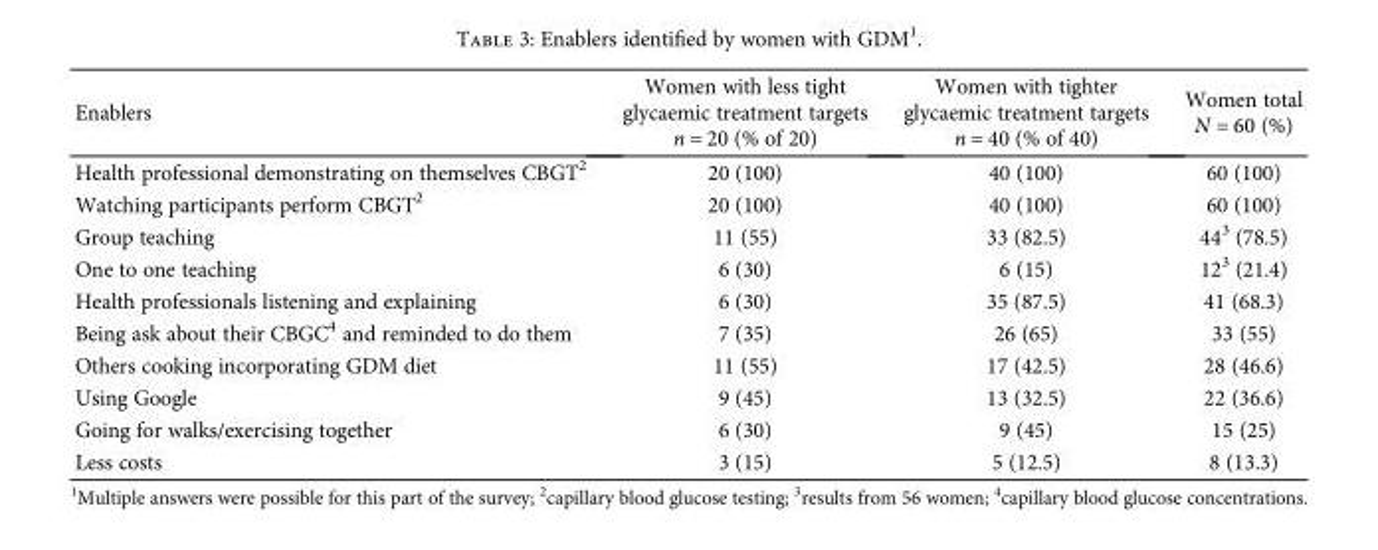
<table><thead><tr><td>Enablers</td><td>Women with less tight glycaemic treatment targets n = 20 (% of 20)</td><td>Women with tighter glycaemic treatment targets n = 40 (% of 40)</td><td>Women total N = 60 (%)</td></tr></thead><tbody><tr><td>Health professional demonstrating on themselves CBGT<sup>2</sup></td><td>20 (100)</td><td>40 (100)</td><td>60 (100)</td></tr><tr><td>Watching participants perform CBGT<sup>2</sup></td><td>20 (100)</td><td>40 (100)</td><td>60 (100)</td></tr><tr><td>Group teaching</td><td>11 (55)</td><td>33 (82.5)</td><td>44<sup>3</sup> (78.5)</td></tr><tr><td>One to one teaching</td><td>6 (30)</td><td>6 (15)</td><td>12<sup>3</sup> (21.4)</td></tr><tr><td>Health professionals listening and explaining</td><td>6 (30)</td><td>35 (87.5)</td><td>41 (68.3)</td></tr><tr><td>Being ask about their CBGC<sup>4</sup> and reminded to do them</td><td>7 (35)</td><td>26 (65)</td><td>33 (55)</td></tr><tr><td>Others cooking incorporating GDM diet</td><td>11 (55)</td><td>17 (42.5)</td><td>28 (46.6)</td></tr><tr><td>Using Google</td><td>9 (45)</td><td>13 (32.5)</td><td>22 (36.6)</td></tr><tr><td>Going for walks/exercising together</td><td>6 (30)</td><td>9 (45)</td><td>15 (25)</td></tr><tr><td>Less costs</td><td>3 (15)</td><td>5 (12.5)</td><td>8 (13.3)</td></tr></tbody></table>